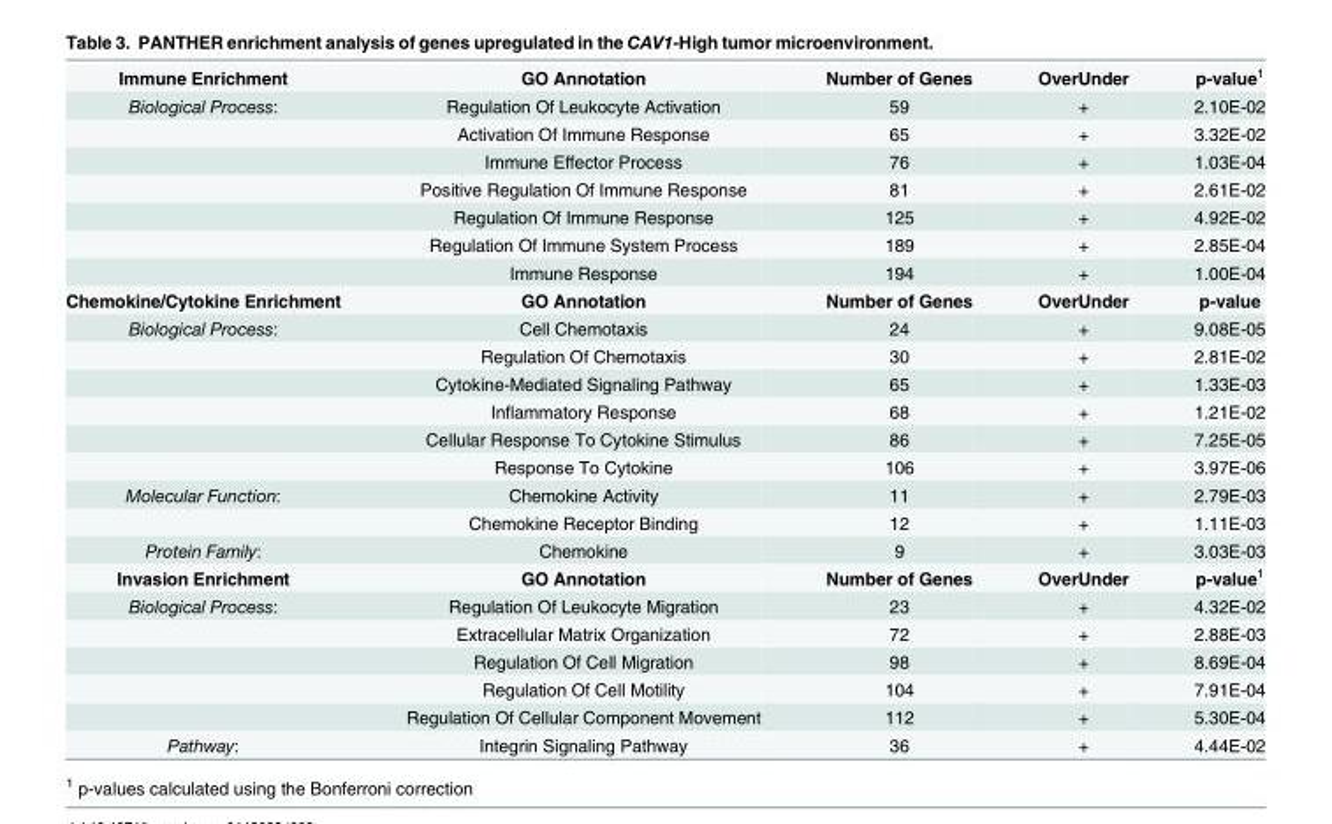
<table><tbody><tr><td>Immune Enrichment</td><td>GO Annotation</td><td>Number of Genes</td><td>OverUnder</td><td>p-value<sup>1</sup></td></tr><tr><td rowspan="7">Biological Process:</td><td>Regulation Of Leukocyte Activation</td><td>59</td><td>+</td><td>2.10E-02</td></tr><tr><td>Activation Of Immune Response</td><td>65</td><td>+</td><td>3.32E-02</td></tr><tr><td>Immune Effector Process</td><td>76</td><td>+</td><td>1.03E-04</td></tr><tr><td>Positive Regulation Of Immune Response</td><td>81</td><td>+</td><td>2.61E-02</td></tr><tr><td>Regulation Of Immune Response</td><td>125</td><td>+</td><td>4.92E-02</td></tr><tr><td>Regulation Of Immune System Process</td><td>189</td><td>+</td><td>2.85E-04</td></tr><tr><td>Immune Response</td><td>194</td><td>+</td><td>1.00E-04</td></tr><tr><td>Chemokine/Cytokine Enrichment</td><td>GO Annotation</td><td>Number of Genes</td><td>OverUnder</td><td>p-value</td></tr><tr><td rowspan="6">Biological Process:</td><td>Cell Chemotaxis</td><td>24</td><td>+</td><td>9.08E-05</td></tr><tr><td>Regulation Of Chemotaxis</td><td>30</td><td>+</td><td>2.81E-02</td></tr><tr><td>Cytokine-Mediated Signaling Pathway</td><td>65</td><td>+</td><td>1.33E-03</td></tr><tr><td>Inflammatory Response</td><td>68</td><td>+</td><td>1.21E-02</td></tr><tr><td>Cellular Response To Cytokine Stimulus</td><td>86</td><td>+</td><td>7.25E-05</td></tr><tr><td>Response To Cytokine</td><td>106</td><td>+</td><td>3.97E-06</td></tr><tr><td rowspan="2">Molecular Function:</td><td>Chemokine Activity</td><td>11</td><td>+</td><td>2.79E-03</td></tr><tr><td>Chemokine Receptor Binding</td><td>12</td><td>+</td><td>1.11E-03</td></tr><tr><td>Protein Family:</td><td>Chemokine</td><td>9</td><td>+</td><td>3.03E-03</td></tr><tr><td>Invasion Enrichment</td><td>GO Annotation</td><td>Number of Genes</td><td>OverUnder</td><td>p-value<sup>1</sup></td></tr><tr><td rowspan="5">Biological Process:</td><td>Regulation Of Leukocyte Migration</td><td>23</td><td>+</td><td>4.32E-02</td></tr><tr><td>Extracellular Matrix Organization</td><td>72</td><td>+</td><td>2.88E-03</td></tr><tr><td>Regulation Of Cell Migration</td><td>98</td><td>+</td><td>8.69E-04</td></tr><tr><td>Regulation Of Cell Motility</td><td>104</td><td>+</td><td>7.91E-04</td></tr><tr><td>Regulation Of Cellular Component Movement</td><td>112</td><td>+</td><td>5.30E-04</td></tr><tr><td>Pathway:</td><td>Integrin Signaling Pathway</td><td>36</td><td>+</td><td>4.44E-02</td></tr></tbody></table>